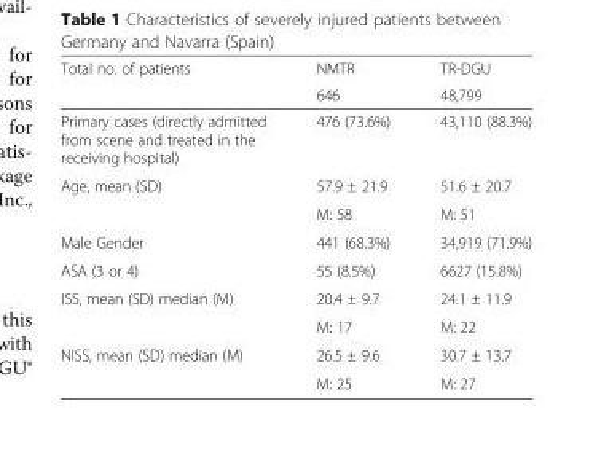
<table><thead><tr><td rowspan="2">Total no. of patients</td><td rowspan="2">NMTR 646</td><td rowspan="2">TR-DGU 48,799</td></tr><tr></tr></thead><tbody><tr><td>Primary cases (directly admitted from scene and treated in the receiving hospital)</td><td>476 (73.6%)</td><td>43,110 (88.3%)</td></tr><tr><td rowspan="2">Age, mean (SD)</td><td>57.9 ± 21.9</td><td>51.6 ± 20.7</td></tr><tr><td>M: 58</td><td>M: 51</td></tr><tr><td>Male Gender</td><td>441 (68.3%)</td><td>34,919 (71.9%)</td></tr><tr><td>ASA (3 or 4)</td><td>55 (8.5%)</td><td>6627 (15.8%)</td></tr><tr><td rowspan="2">ISS, mean (SD) median (M)</td><td>20.4 ± 9.7</td><td>24.1 ± 11.9</td></tr><tr><td>M: 17</td><td>M: 22</td></tr><tr><td rowspan="2">NISS, mean (SD) median (M)</td><td>26.5 ± 9.6</td><td>30.7 ± 13.7</td></tr><tr><td>M: 25</td><td>M: 27</td></tr></tbody></table>